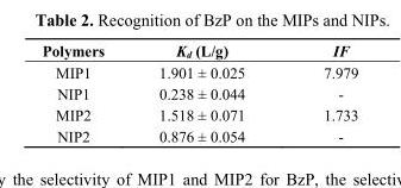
<table><thead><tr><td>Polymers</td><td>K<sub>d</sub> (L/g)</td><td>IF</td></tr></thead><tbody><tr><td>MIP1</td><td>1.901 ± 0.025</td><td>7.979</td></tr><tr><td>NIP1</td><td>0.238 ± 0.044</td><td>-</td></tr><tr><td>MIP2</td><td>1.518 ± 0.071</td><td>1.733</td></tr><tr><td>NIP2</td><td>0.876 ± 0.054</td><td>-</td></tr></tbody></table>